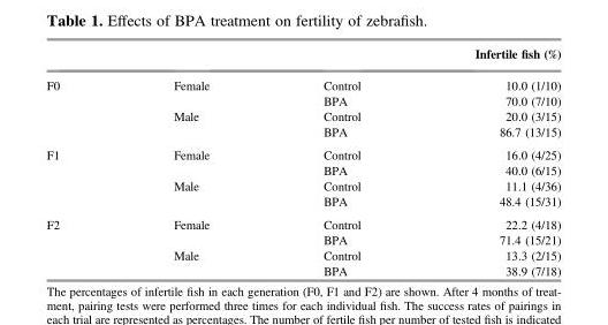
<table><thead><tr><td></td><td></td><td></td><td>Infertile fish (%)</td></tr></thead><tbody><tr><td rowspan="4">F0</td><td rowspan="2">Female</td><td>Control</td><td>10.0 (1/10)</td></tr><tr><td>BPA</td><td>70.0 (7/10)</td></tr><tr><td rowspan="2">Male</td><td>Control</td><td>20.0 (3/15)</td></tr><tr><td>BPA</td><td>86.7 (13/15)</td></tr><tr><td rowspan="4">F1</td><td rowspan="2">Female</td><td>Control</td><td>16.0 (4/25)</td></tr><tr><td>BPA</td><td>40.0 (6/15)</td></tr><tr><td rowspan="2">Male</td><td>Control</td><td>11.1 (4/36)</td></tr><tr><td>BPA</td><td>48.4 (15/31)</td></tr><tr><td rowspan="4">F2</td><td rowspan="2">Female</td><td>Control</td><td>22.2 (4/18)</td></tr><tr><td>BPA</td><td>71.4 (15/21)</td></tr><tr><td rowspan="2">Male</td><td>Control</td><td>13.3 (2/15)</td></tr><tr><td>BPA</td><td>38.9 (7/18)</td></tr></tbody></table>